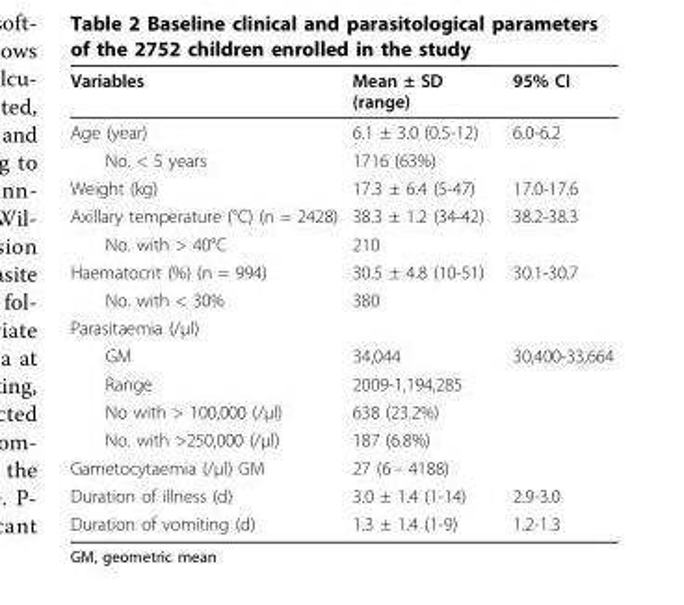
<table><thead><tr><td>Variables</td><td>Mean ± SD (range)</td><td>95% CI</td></tr></thead><tbody><tr><td>Age (year)</td><td>6.1 ± 3.0 (0.5-12)</td><td>6.0-6.2</td></tr><tr><td>No. &lt; 5 years</td><td>1716 (63%)</td><td></td></tr><tr><td>Weight (kg)</td><td>17.3 ± 6.4 (5-47)</td><td>17.0-17.6</td></tr><tr><td>Axillary temperature (°C) (n = 2428)</td><td>38.3 ± 1.2 (34-42)</td><td>38.2-38.3</td></tr><tr><td>No. with &gt; 40°C</td><td>210</td><td></td></tr><tr><td>Haematocrit (%) (n = 994)</td><td>30.5 ± 4.8 (10-51)</td><td>30.1-30.7</td></tr><tr><td>No. with &lt; 30%</td><td>380</td><td></td></tr><tr><td colspan="3">Parasitaemia (/μl)</td></tr><tr><td>GM</td><td>34,044</td><td>30,400-33,664</td></tr><tr><td>Range</td><td>2009-1,194,285</td><td></td></tr><tr><td>No with &gt; 100,000 (/μl)</td><td>638 (23.2%)</td><td></td></tr><tr><td>No. with &gt;250,000 (/μl)</td><td>187 (6.8%)</td><td></td></tr><tr><td>Gametocytaemia (/μl) GM</td><td>27 (6 - 4188)</td><td></td></tr><tr><td>Duration of illness (d)</td><td>3.0 ± 1.4 (1-14)</td><td>2.9-3.0</td></tr><tr><td>Duration of vomiting (d)</td><td>1.3 ± 1.4 (1-9)</td><td>1.2-1.3</td></tr></tbody></table>